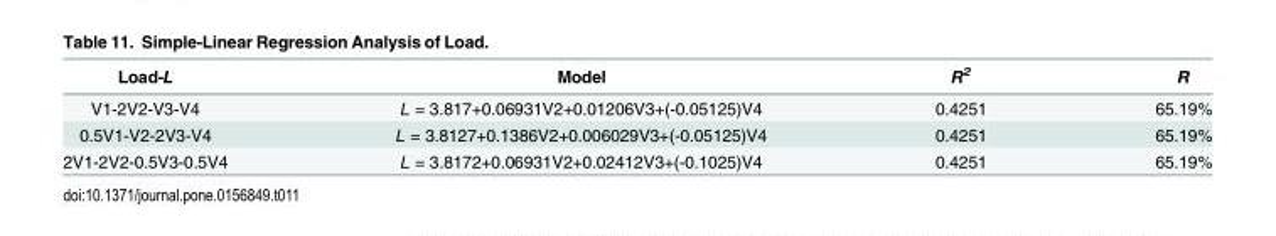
<table><thead><tr><td>Load-L</td><td>Model</td><td>R<sup>2</sup></td><td>R</td></tr></thead><tbody><tr><td>V1-2V2-V3-V4</td><td>L = 3.817+0.06931V2+0.01206V3+(-0.05125)V4</td><td>0.4251</td><td>65.19%</td></tr><tr><td>0.5V1-V2-2V3-V4</td><td>L = 3.8127+0.1386V2+0.006029V3+(-0.05125)V4</td><td>0.4251</td><td>65.19%</td></tr><tr><td>2V1-2V2-0.5V3-0.5V4</td><td>L = 3.8172+0.06931V2+0.02412V3+(-0.1025)V4</td><td>0.4251</td><td>65.19%</td></tr></tbody></table>